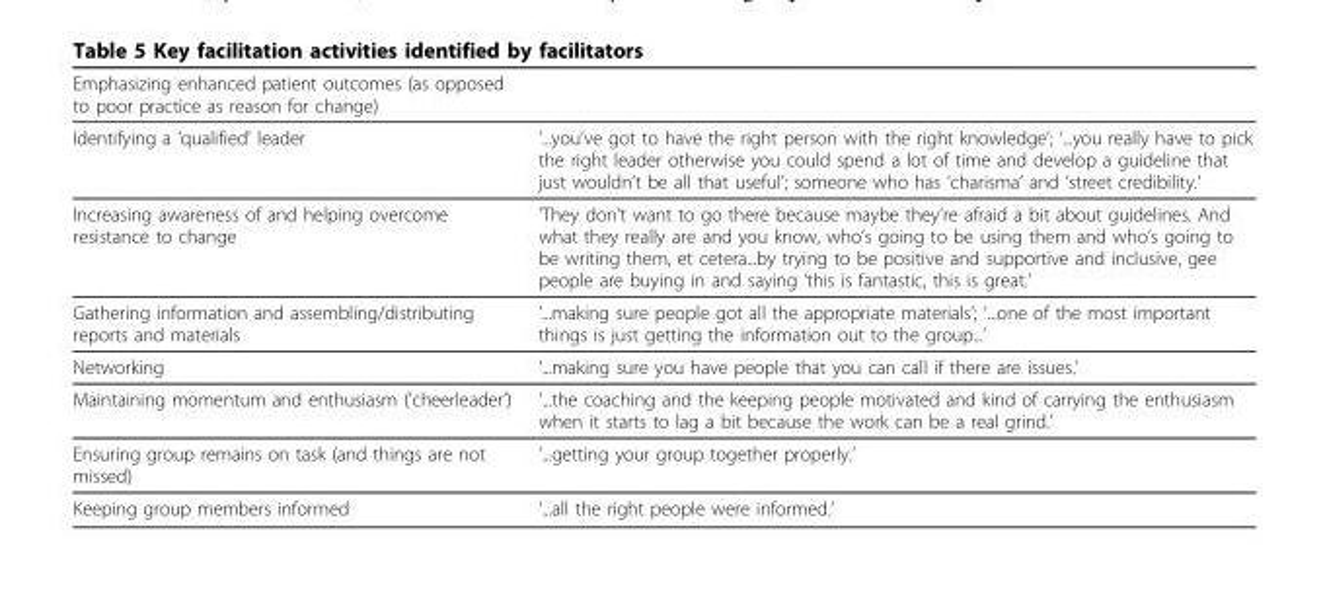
<table><thead><tr><td>Emphasizing enhanced patient outcomes (as opposed to poor practice as reason for change)</td><td></td></tr></thead><tbody><tr><td>Identifying a ‘qualified’ leader</td><td>’...you’ve got to have the right person with the right knowledge’; ‘...you really have to pick the right leader otherwise you could spend a lot of time and develop a guideline that just wouldn’t be all that useful’; someone who has ‘charisma’ and ‘street credibility.’</td></tr><tr><td>Increasing awareness of and helping overcome resistance to change</td><td>’They don’t want to go there because maybe they’re afraid a bit about guidelines. And what they really are and you know, who’s going to be using them and who’s going to be writing them, et cetera...by trying to be positive and supportive and inclusive, gee people are buying in and saying ‘this is fantastic, this is great.’</td></tr><tr><td>Gathering information and assembling/distributing reports and materials</td><td>’...making sure people got all the appropriate materials’; ‘...one of the most important things is just getting the information out to the group...’</td></tr><tr><td>Networking</td><td>’...making sure you have people that you can call if there are issues.’</td></tr><tr><td>Maintaining momentum and enthusiasm (’cheerleader’)</td><td>’...the coaching and the keeping people motivated and kind of carrying the enthusiasm when it starts to lag a bit because the work can be a real grind.’</td></tr><tr><td>Ensuring group remains on task (and things are not missed)</td><td>’...getting your group together properly.’</td></tr><tr><td>Keeping group members informed</td><td>’...all the right people were informed.’</td></tr></tbody></table>